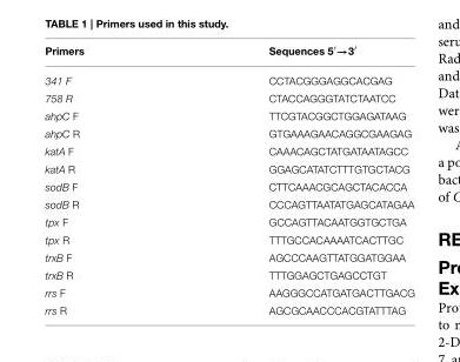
<table><thead><tr><td>Primers</td><td>Sequences 5′→3′</td></tr></thead><tbody><tr><td>341 F</td><td>CCTACGGGAGGCACGAG</td></tr><tr><td>758 R</td><td>CTACCAGGGTATCTAATCC</td></tr><tr><td>ahpC F</td><td>TTCGTACGGCTGGAGATAAG</td></tr><tr><td>ahpC R</td><td>GTGAAAGAACAGGCGAAGAG</td></tr><tr><td>katA F</td><td>CAAACAGCTATGATAATAGCC</td></tr><tr><td>katA R</td><td>GGAGCATATCTTTGTGCTACG</td></tr><tr><td>sodB F</td><td>CTTCAAACGCAGCTACACCA</td></tr><tr><td>sodB R</td><td>CCCAGTTAATATGAGCATAGAA</td></tr><tr><td>tpx F</td><td>GCCAGTTACAATGGTGCTGA</td></tr><tr><td>tpx R</td><td>TTTGCCACAAAATCACTTGC</td></tr><tr><td>trxB F</td><td>AGCCCAAGTTATGGATGGAA</td></tr><tr><td>trxB R</td><td>TTTGGAGCTGAGCCTGT</td></tr><tr><td>rrs F</td><td>AAGGGCCATGATGACTTGACG</td></tr><tr><td>rrs R</td><td>AGCGCAACCCACGTATTTAG</td></tr></tbody></table>